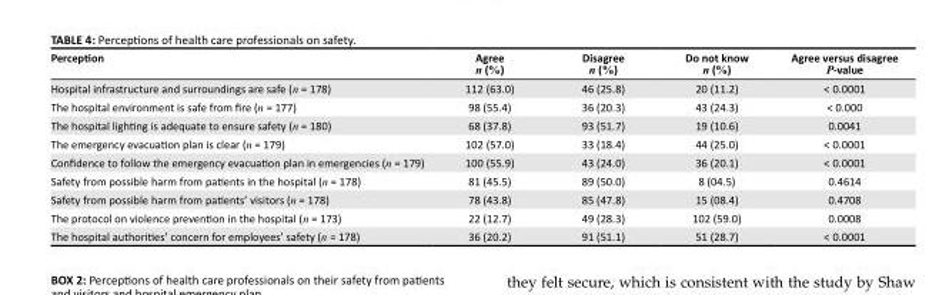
<table><thead><tr><td>Perception</td><td>Agree n (%)</td><td>Disagree n (%)</td><td>Do not know n (%)</td><td>Agree versus disagree P-value</td></tr></thead><tbody><tr><td>Hospital infrastructure and surroundings are safe (n = 178)</td><td>112 (63.0)</td><td>46 (25.8)</td><td>20 (11.2)</td><td>&lt; 0.0001</td></tr><tr><td>The hospital environment is safe from fire (n = 177)</td><td>98 (55.4)</td><td>36 (20.3)</td><td>43 (24.3)</td><td>&lt; 0.000</td></tr><tr><td>The hospital lighting is adequate to ensure safety (n = 180)</td><td>68 (37.8)</td><td>93 (51.7)</td><td>19 (10.6)</td><td>0.0041</td></tr><tr><td>The emergency evacuation plan is clear (n = 179)</td><td>102 (57.0)</td><td>33 (18.4)</td><td>44 (25.0)</td><td>&lt; 0.0001</td></tr><tr><td>Confidence to follow the emergency evacuation plan in emergencies (n = 179)</td><td>100 (55.9)</td><td>43 (24.0)</td><td>36 (20.1)</td><td>&lt; 0.0001</td></tr><tr><td>Safety from possible harm from patients in the hospital (n = 178)</td><td>81 (45.5)</td><td>89 (50.0)</td><td>8 (04.5)</td><td>0.4614</td></tr><tr><td>Safety from possible harm from patients’ visitors (n = 178)</td><td>78 (43.8)</td><td>85 (47.8)</td><td>15 (08.4)</td><td>0.4708</td></tr><tr><td>The protocol on violence prevention in the hospital (n = 173)</td><td>22 (12.7)</td><td>49 (28.3)</td><td>102 (59.0)</td><td>0.0008</td></tr><tr><td>The hospital authorities’ concern for employees’ safety (n = 178)</td><td>36 (20.2)</td><td>91 (51.1)</td><td>51 (28.7)</td><td>&lt; 0.0001</td></tr></tbody></table>